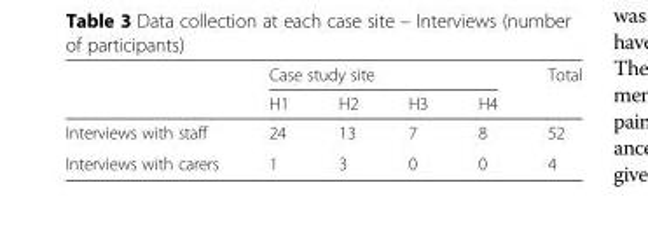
<table><thead><tr><td rowspan="2"></td><td colspan="4">Case study site</td><td rowspan="2">Total</td></tr><tr><td>H1</td><td>H2</td><td>H3</td><td>H4</td></tr></thead><tbody><tr><td>Interviews with staff</td><td>24</td><td>13</td><td>7</td><td>8</td><td>52</td></tr><tr><td>Interviews with carers</td><td>1</td><td>3</td><td>0</td><td>0</td><td>4</td></tr></tbody></table>